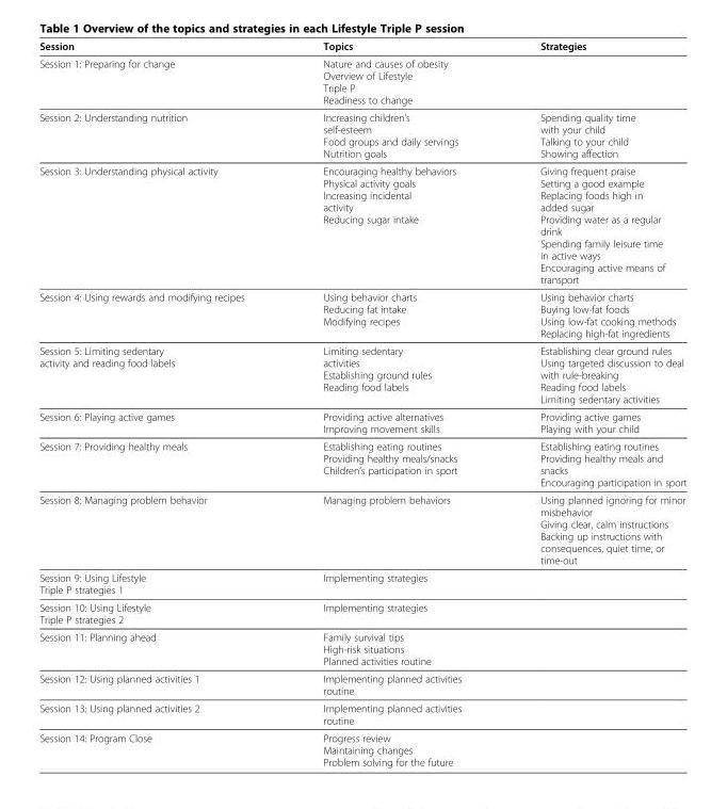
<table><thead><tr><td>Session</td><td>Topics</td><td>Strategies</td></tr></thead><tbody><tr><td>Session 1: Preparing for change</td><td>Nature and causes of obesity Overview of Lifestyle Triple P Readiness to change</td><td></td></tr><tr><td>Session 2: Understanding nutrition</td><td>Increasing children’s self-esteem Food groups and daily servings Nutrition goals</td><td>Spending quality time with your child Talking to your child Showing affection</td></tr><tr><td>Session 3: Understanding physical activity</td><td>Encouraging healthy behaviors Physical activity goals Increasing incidental activity Reducing sugar intake</td><td>Giving frequent praise Setting a good example Replacing foods high in added sugar Providing water as a regular drink Spending family leisure time in active ways Encouraging active means of transport</td></tr><tr><td>Session 4: Using rewards and modifying recipes</td><td>Using behavior charts Reducing fat intake Modifying recipes</td><td>Using behavior charts Buying low-fat foods Using low-fat cooking methods Replacing high-fat ingredients</td></tr><tr><td>Session 5: Limiting sedentary activity and reading food labels</td><td>Limiting sedentary activities Establishing ground rules Reading food labels</td><td>Establishing clear ground rules Using targeted discussion to deal with rule-breaking Reading food labels Limiting sedentary activities</td></tr><tr><td>Session 6: Playing active games</td><td>Providing active alternatives Improving movement skills</td><td>Providing active games Playing with your child</td></tr><tr><td>Session 7: Providing healthy meals</td><td>Establishing eating routines Providing healthy meals/snacks Children’s participation in sport</td><td>Establishing eating routines Providing healthy meals and snacks Encouraging participation in sport</td></tr><tr><td>Session 8: Managing problem behavior</td><td>Managing problem behaviors</td><td>Using planned ignoring for minor misbehavior Giving clear, calm instructions Backing up instructions with consequences, quiet time, or time-out</td></tr><tr><td>Session 9: Using Lifestyle Triple P strategies 1</td><td>Implementing strategies</td><td></td></tr><tr><td>Session 10: Using Lifestyle Triple P strategies 2</td><td>Implementing strategies</td><td></td></tr><tr><td>Session 11: Planning ahead</td><td>Family survival tips High-risk situations Planned activities routine</td><td></td></tr><tr><td>Session 12: Using planned activities 1</td><td>Implementing planned activities routine</td><td></td></tr><tr><td>Session 13: Using planned activities 2</td><td>Implementing planned activities routine</td><td></td></tr><tr><td>Session 14: Program Close</td><td>Progress review Maintaining changes Problem solving for the future</td><td></td></tr></tbody></table>